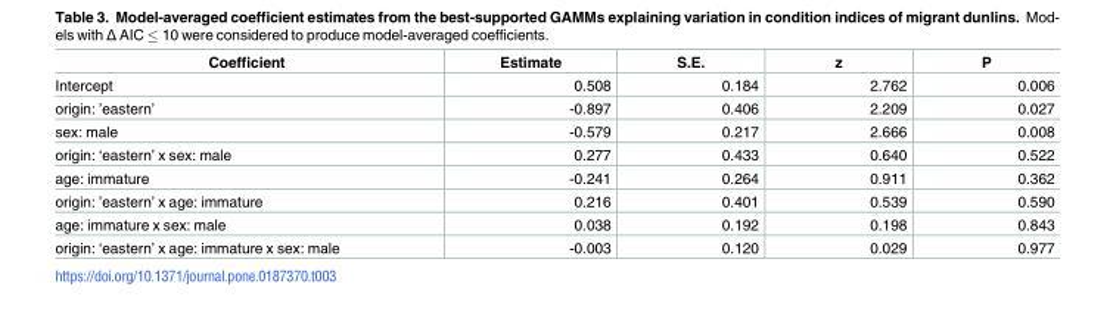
<table><thead><tr><td>Coefficient</td><td>Estimate</td><td>S.E.</td><td>z</td><td>P</td></tr></thead><tbody><tr><td>Intercept</td><td>0.508</td><td>0.184</td><td>2.762</td><td>0.006</td></tr><tr><td>origin: ’eastern’</td><td>-0.897</td><td>0.406</td><td>2.209</td><td>0.027</td></tr><tr><td>sex: male</td><td>-0.579</td><td>0.217</td><td>2.666</td><td>0.008</td></tr><tr><td>origin: ‘eastern’ x sex: male</td><td>0.277</td><td>0.433</td><td>0.640</td><td>0.522</td></tr><tr><td>age: immature</td><td>-0.241</td><td>0.264</td><td>0.911</td><td>0.362</td></tr><tr><td>origin: ’eastern’ x age: immature</td><td>0.216</td><td>0.401</td><td>0.539</td><td>0.590</td></tr><tr><td>age: immature x sex: male</td><td>0.038</td><td>0.192</td><td>0.198</td><td>0.843</td></tr><tr><td>origin: ‘eastern’ x age: immature x sex: male</td><td>-0.003</td><td>0.120</td><td>0.029</td><td>0.977</td></tr></tbody></table>